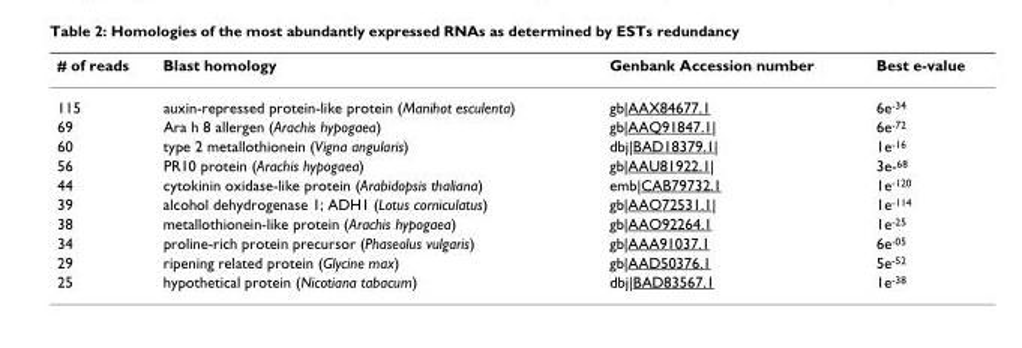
<table><thead><tr><td># of reads</td><td>Blast homology</td><td>Genbank Accession number</td><td>Best e-value</td></tr></thead><tbody><tr><td>115</td><td>auxin-repressed protein-like protein (Manihot esculenta)</td><td>gb|AAX84677.1</td><td>6e-34</td></tr><tr><td>69</td><td>Ara h 8 allergen (Arachis hypogaea)</td><td>gb|AAQ91847.1|</td><td>6e-72</td></tr><tr><td>60</td><td>type 2 metallothionein (Vigna angularis)</td><td>dbj|BAD18379.1|</td><td>1e-16</td></tr><tr><td>56</td><td>PR10 protein (Arachis hypogaea)</td><td>gb|AAU81922.1|</td><td>3e-68</td></tr><tr><td>44</td><td>cytokinin oxidase-like protein (Arabidopsis thaliana)</td><td>emb|CAB79732.1</td><td>1e-120</td></tr><tr><td>39</td><td>alcohol dehydrogenase 1; ADH1 (Lotus corniculatus)</td><td>gb|AAO72531.1|</td><td>1e-114</td></tr><tr><td>38</td><td>metallothionein-like protein (Arachis hypogaea)</td><td>gb|AAO92264.1</td><td>1e-25</td></tr><tr><td>34</td><td>proline-rich protein precursor (Phaseolus vulgaris)</td><td>gb|AAA91037.1</td><td>6e-05</td></tr><tr><td>29</td><td>ripening related protein (Glycine max)</td><td>gb|AAD50376.1</td><td>5e-52</td></tr><tr><td>25</td><td>hypothetical protein (Nicotiana tabacum)</td><td>dbj|BAD83567.1</td><td>1e-38</td></tr></tbody></table>